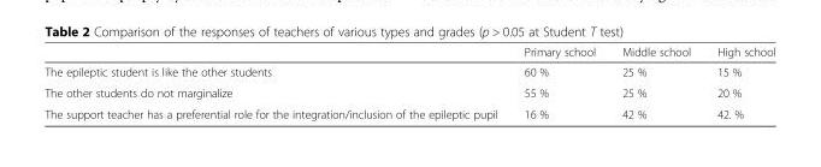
<table><thead><tr><td></td><td>Primary school</td><td>Middle school</td><td>High school</td></tr></thead><tbody><tr><td>The epileptic student is like the other students</td><td>60 %</td><td>25 %</td><td>15 %</td></tr><tr><td>The other students do not marginalize</td><td>55 %</td><td>25 %</td><td>20 %</td></tr><tr><td>The support teacher has a preferential role for the integration/inclusion of the epileptic pupil</td><td>16 %</td><td>42 %</td><td>42. %</td></tr></tbody></table>